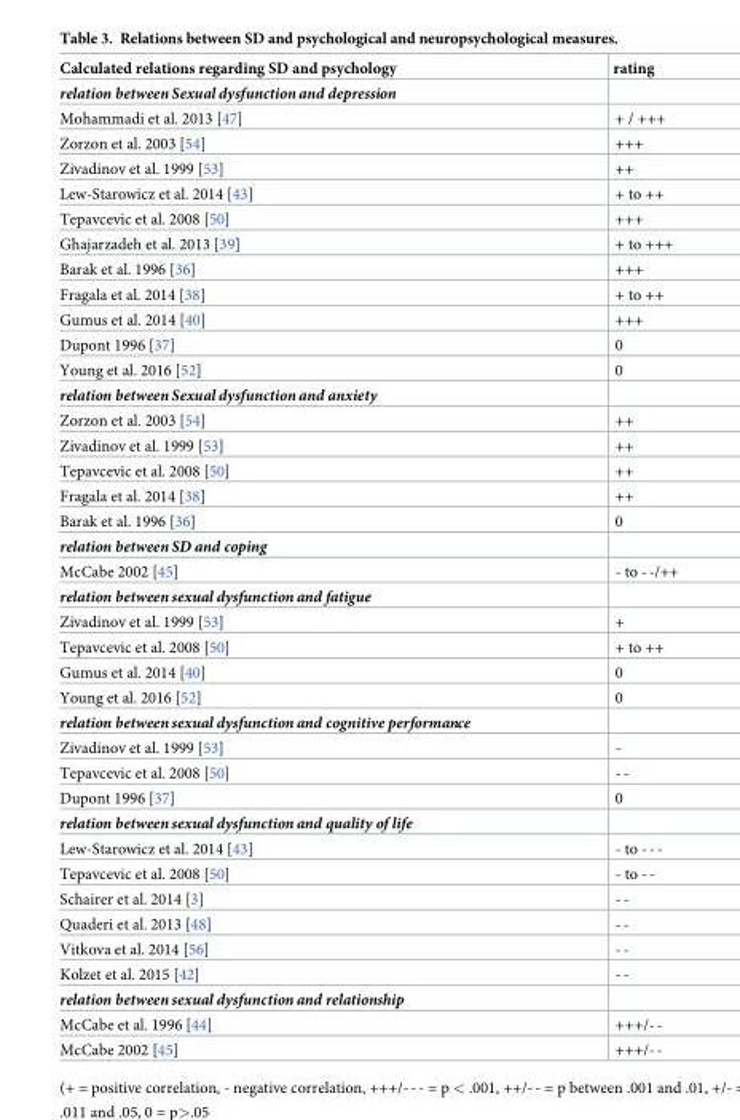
<table><thead><tr><td>Calculated relations regarding SD and psychology</td><td>rating</td></tr></thead><tbody><tr><td colspan="2">relation between Sexual dysfunction and depression</td></tr><tr><td>Mohammadi et al. 2013 [47]</td><td>+ / +++</td></tr><tr><td>Zorzon et al. 2003 [54]</td><td>+++</td></tr><tr><td>Zivadinov et al. 1999 [53]</td><td>++</td></tr><tr><td>Lew-Starowicz et al. 2014 [43]</td><td>+ to ++</td></tr><tr><td>Tepavcevic et al. 2008 [50]</td><td>+++</td></tr><tr><td>Ghajarzadeh et al. 2013 [39]</td><td>+ to +++</td></tr><tr><td>Barak et al. 1996 [36]</td><td>+++</td></tr><tr><td>Fragala et al. 2014 [38]</td><td>+ to ++</td></tr><tr><td>Gumus et al. 2014 [40]</td><td>+++</td></tr><tr><td>Dupont 1996 [37]</td><td>0</td></tr><tr><td>Young et al. 2016 [52]</td><td>0</td></tr><tr><td colspan="2">relation between Sexual dysfunction and anxiety</td></tr><tr><td>Zorzon et al. 2003 [54]</td><td>++</td></tr><tr><td>Zivadinov et al. 1999 [53]</td><td>++</td></tr><tr><td>Tepavcevic et al. 2008 [50]</td><td>++</td></tr><tr><td>Fragala et al. 2014 [38]</td><td>++</td></tr><tr><td>Barak et al. 1996 [36]</td><td>0</td></tr><tr><td colspan="2">relation between SD and coping</td></tr><tr><td>McCabe 2002 [45]</td><td>- to --/++</td></tr><tr><td colspan="2">relation between sexual dysfunction and fatigue</td></tr><tr><td>Zivadinov et al. 1999 [53]</td><td>+</td></tr><tr><td>Tepavcevic et al. 2008 [50]</td><td>+ to ++</td></tr><tr><td>Gumus et al. 2014 [40]</td><td>0</td></tr><tr><td>Young et al. 2016 [52]</td><td>0</td></tr><tr><td colspan="2">relation between sexual dysfunction and cognitive performance</td></tr><tr><td>Zivadinov et al. 1999 [53]</td><td>-</td></tr><tr><td>Tepavcevic et al. 2008 [50]</td><td>--</td></tr><tr><td>Dupont 1996 [37]</td><td>0</td></tr><tr><td colspan="2">relation between sexual dysfunction and quality of life</td></tr><tr><td>Lew-Starowicz et al. 2014 [43]</td><td>- to ---</td></tr><tr><td>Tepavcevic et al. 2008 [50]</td><td>- to --</td></tr><tr><td>Schairer et al. 2014 [3]</td><td>--</td></tr><tr><td>Quaderi et al. 2013 [48]</td><td>--</td></tr><tr><td>Vitkova et al. 2014 [56]</td><td>--</td></tr><tr><td>Kolzet et al. 2015 [42]</td><td>--</td></tr><tr><td colspan="2">relation between sexual dysfunction and relationship</td></tr><tr><td>McCabe et al. 1996 [44]</td><td>+++/--</td></tr><tr><td>McCabe 2002 [45]</td><td>+++/--</td></tr></tbody></table>